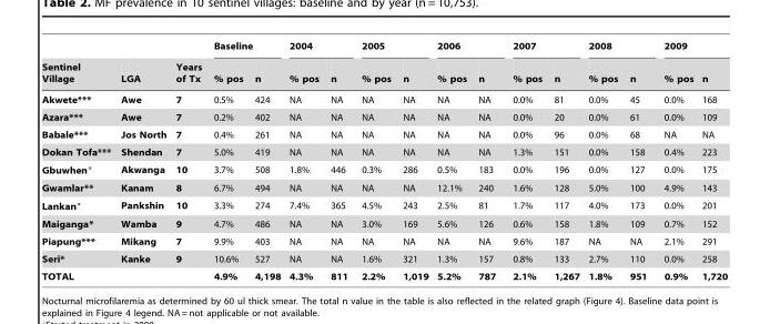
<table><thead><tr><td rowspan="2">Sentinel Village</td><td rowspan="2">LGA</td><td rowspan="2">Years of Tx</td><td colspan="2">Baseline</td><td colspan="2">2004</td><td colspan="2">2005</td><td colspan="2">2006</td><td colspan="2">2007</td><td colspan="2">2008</td><td colspan="2">2009</td></tr><tr><td>% pos</td><td>n</td><td>% pos</td><td>n</td><td>% pos</td><td>n</td><td>% pos</td><td>n</td><td>% pos</td><td>n</td><td>% pos</td><td>n</td><td>% pos</td><td>n</td></tr></thead><tbody><tr><td>Akwete***</td><td>Awe</td><td>7</td><td>0.5%</td><td>424</td><td>NA</td><td>NA</td><td>NA</td><td>NA</td><td>NA</td><td>NA</td><td>0.0%</td><td>81</td><td>0.0%</td><td>45</td><td>0.0%</td><td>168</td></tr><tr><td>Azara***</td><td>Awe</td><td>7</td><td>0.2%</td><td>402</td><td>NA</td><td>NA</td><td>NA</td><td>NA</td><td>NA</td><td>NA</td><td>0.0%</td><td>20</td><td>0.0%</td><td>61</td><td>0.0%</td><td>109</td></tr><tr><td>Babale***</td><td>Jos North</td><td>7</td><td>0.4%</td><td>261</td><td>NA</td><td>NA</td><td>NA</td><td>NA</td><td>NA</td><td>NA</td><td>0.0%</td><td>96</td><td>0.0%</td><td>68</td><td>NA</td><td>NA</td></tr><tr><td>Dokan Tofa***</td><td>Shendan</td><td>7</td><td>5.0%</td><td>419</td><td>NA</td><td>NA</td><td>NA</td><td>NA</td><td>NA</td><td>NA</td><td>1.3%</td><td>151</td><td>0.0%</td><td>158</td><td>0.4%</td><td>223</td></tr><tr><td>Gbuwhen°</td><td>Akwanga</td><td>10</td><td>3.7%</td><td>508</td><td>1.8%</td><td>446</td><td>0.3%</td><td>286</td><td>0.5%</td><td>183</td><td>0.0%</td><td>196</td><td>0.0%</td><td>127</td><td>0.0%</td><td>175</td></tr><tr><td>Gwamlar**</td><td>Kanam</td><td>8</td><td>6.7%</td><td>494</td><td>NA</td><td>NA</td><td>NA</td><td>NA</td><td>12.1%</td><td>240</td><td>1.6%</td><td>128</td><td>5.0%</td><td>100</td><td>4.9%</td><td>143</td></tr><tr><td>Lankan°</td><td>Pankshin</td><td>10</td><td>3.3%</td><td>274</td><td>7.4%</td><td>365</td><td>4.5%</td><td>243</td><td>2.5%</td><td>81</td><td>1.7%</td><td>117</td><td>4.0%</td><td>173</td><td>0.0%</td><td>201</td></tr><tr><td>Maiganga*</td><td>Wamba</td><td>9</td><td>4.7%</td><td>486</td><td>NA</td><td>NA</td><td>3.0%</td><td>169</td><td>5.6%</td><td>126</td><td>0.6%</td><td>158</td><td>1.8%</td><td>109</td><td>0.7%</td><td>152</td></tr><tr><td>Piapung***</td><td>Mikang</td><td>7</td><td>9.9%</td><td>403</td><td>NA</td><td>NA</td><td>NA</td><td>NA</td><td>NA</td><td>NA</td><td>9.6%</td><td>187</td><td>NA</td><td>NA</td><td>2.1%</td><td>291</td></tr><tr><td>Seri*</td><td>Kanke</td><td>9</td><td>10.6%</td><td>527</td><td>NA</td><td>NA</td><td>1.6%</td><td>321</td><td>1.3%</td><td>157</td><td>0.8%</td><td>133</td><td>2.7%</td><td>110</td><td>0.0%</td><td>258</td></tr><tr><td colspan="3">TOTAL</td><td>4.9%</td><td>4,198</td><td>4.3%</td><td>811</td><td>2.2%</td><td>1,019</td><td>5.2%</td><td>787</td><td>2.1%</td><td>1,267</td><td>1.8%</td><td>951</td><td>0.9%</td><td>1,720</td></tr></tbody></table>